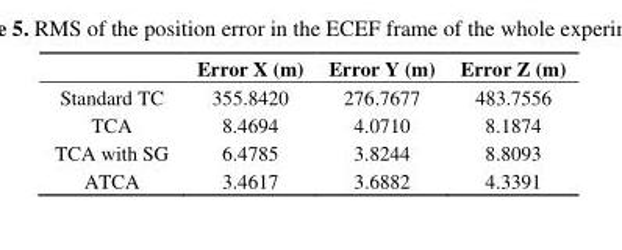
<table><thead><tr><td></td><td>Error X (m)</td><td>Error Y (m)</td><td>Error Z (m)</td></tr></thead><tbody><tr><td>Standard TC</td><td>355.8420</td><td>276.7677</td><td>483.7556</td></tr><tr><td>TCA</td><td>8.4694</td><td>4.0710</td><td>8.1874</td></tr><tr><td>TCA with SG</td><td>6.4785</td><td>3.8244</td><td>8.8093</td></tr><tr><td>ATCA</td><td>3.4617</td><td>3.6882</td><td>4.3391</td></tr></tbody></table>